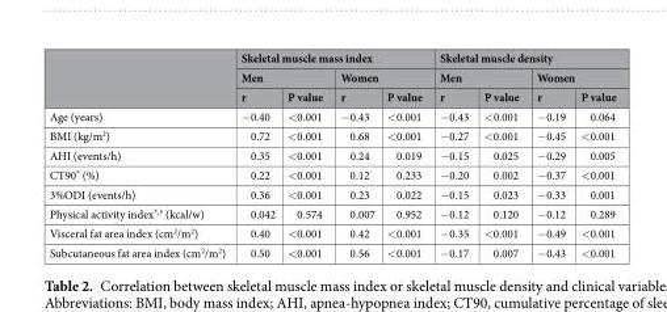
<table><thead><tr><td rowspan="3"></td><td colspan="4">Skeletal muscle mass index</td><td colspan="4">Skeletal muscle density</td></tr><tr><td colspan="2">Men</td><td colspan="2">Women</td><td colspan="2">Men</td><td colspan="2">Women</td></tr><tr><td>r</td><td>P value</td><td>r</td><td>P value</td><td>r</td><td>P value</td><td>r</td><td>P value</td></tr></thead><tbody><tr><td>Age (years)</td><td>−0.40</td><td>&lt;0.001</td><td>−0.43</td><td>&lt;0.001</td><td>−0.43</td><td>&lt;0.001</td><td>−0.19</td><td>0.064</td></tr><tr><td>BMI (kg/m<sup>2</sup>)</td><td>0.72</td><td>&lt;0.001</td><td>0.68</td><td>&lt;0.001</td><td>−0.27</td><td>&lt;0.001</td><td>−0.45</td><td>&lt;0.001</td></tr><tr><td>AHI (events/h)</td><td>0.35</td><td>&lt;0.001</td><td>0.24</td><td>0.019</td><td>−0.15</td><td>0.025</td><td>−0.29</td><td>0.005</td></tr><tr><td>CT90* (%)</td><td>0.22</td><td>&lt;0.001</td><td>0.12</td><td>0.233</td><td>−0.20</td><td>0.002</td><td>−0.37</td><td>&lt;0.001</td></tr><tr><td>3%ODI (events/h)</td><td>0.36</td><td>&lt;0.001</td><td>0.23</td><td>0.022</td><td>−0.15</td><td>0.023</td><td>−0.33</td><td>0.001</td></tr><tr><td>Physical activity index<sup>*,†</sup> (kcal/w)</td><td>0.042</td><td>0.574</td><td>0.007</td><td>0.952</td><td>−0.12</td><td>0.120</td><td>−0.12</td><td>0.289</td></tr><tr><td>Visceral fat area index (cm<sup>2</sup>/m<sup>2</sup>)</td><td>0.40</td><td>&lt;0.001</td><td>0.42</td><td>&lt;0.001</td><td>−0.35</td><td>&lt;0.001</td><td>−0.49</td><td>&lt;0.001</td></tr><tr><td>Subcutaneous fat area index (cm<sup>2</sup>/m<sup>2</sup>)</td><td>0.50</td><td>&lt;0.001</td><td>0.56</td><td>&lt;0.001</td><td>−0.17</td><td>0.007</td><td>−0.43</td><td>&lt;0.001</td></tr></tbody></table>